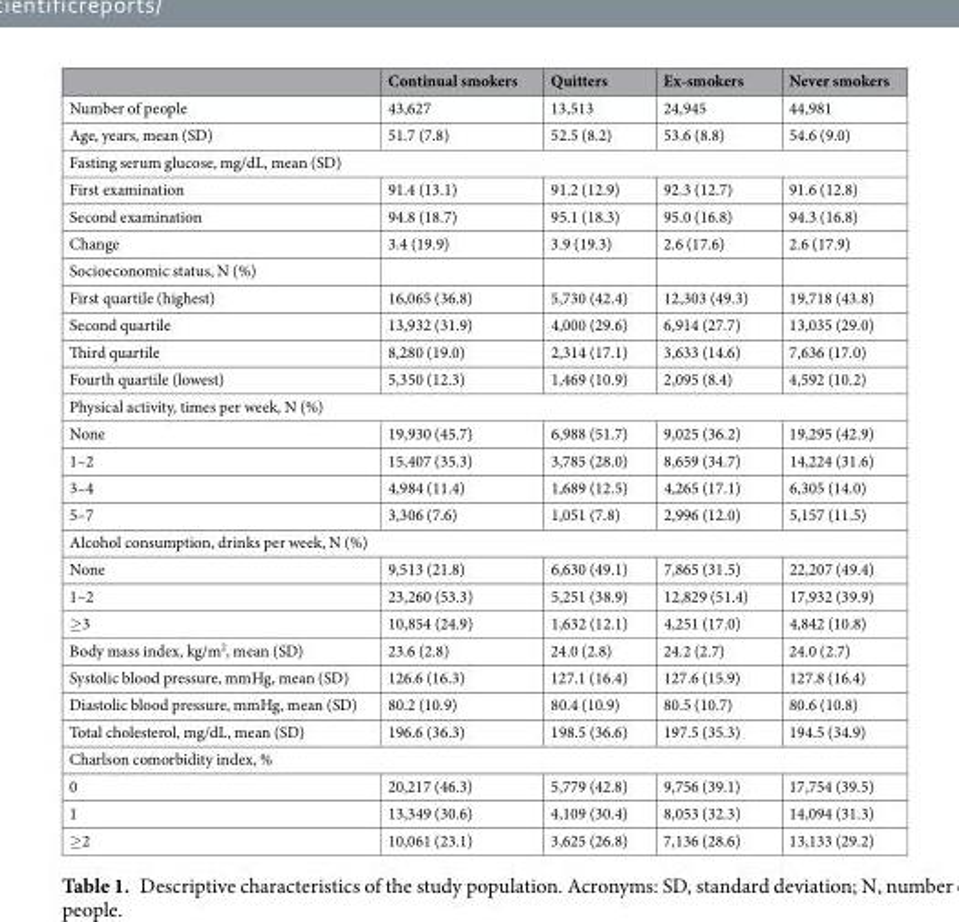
<table><thead><tr><td></td><td>Continual smokers</td><td>Quitters</td><td>Ex-smokers</td><td>Never smokers</td></tr></thead><tbody><tr><td>Number of people</td><td>43,627</td><td>13,513</td><td>24,945</td><td>44,981</td></tr><tr><td>Age, years, mean (SD)</td><td>51.7 (7.8)</td><td>52.5 (8.2)</td><td>53.6 (8.8)</td><td>54.6 (9.0)</td></tr><tr><td colspan="5">Fasting serum glucose, mg/dL, mean (SD)</td></tr><tr><td>First examination</td><td>91.4 (13.1)</td><td>91.2 (12.9)</td><td>92.3 (12.7)</td><td>91.6 (12.8)</td></tr><tr><td>Second examination</td><td>94.8 (18.7)</td><td>95.1 (18.3)</td><td>95.0 (16.8)</td><td>94.3 (16.8)</td></tr><tr><td>Change</td><td>3.4 (19.9)</td><td>3.9 (19.3)</td><td>2.6 (17.6)</td><td>2.6 (17.9)</td></tr><tr><td colspan="5">Socioeconomic status, N (%)</td></tr><tr><td>First quartile (highest)</td><td>16,065 (36.8)</td><td>5,730 (42.4)</td><td>12,303 (49.3)</td><td>19,718 (43.8)</td></tr><tr><td>Second quartile</td><td>13,932 (31.9)</td><td>4,000 (29.6)</td><td>6,914 (27.7)</td><td>13,035 (29.0)</td></tr><tr><td>Third quartile</td><td>8,280 (19.0)</td><td>2,314 (17.1)</td><td>3,633 (14.6)</td><td>7,636 (17.0)</td></tr><tr><td>Fourth quartile (lowest)</td><td>5,350 (12.3)</td><td>1,469 (10.9)</td><td>2,095 (8.4)</td><td>4,592 (10.2)</td></tr><tr><td colspan="5">Physical activity, times per week, N (%)</td></tr><tr><td>None</td><td>19,930 (45.7)</td><td>6,988 (51.7)</td><td>9,025 (36.2)</td><td>19,295 (42.9)</td></tr><tr><td>1–2</td><td>15,407 (35.3)</td><td>3,785 (28.0)</td><td>8,659 (34.7)</td><td>14,224 (31.6)</td></tr><tr><td>3–4</td><td>4,984 (11.4)</td><td>1,689 (12.5)</td><td>4,265 (17.1)</td><td>6,305 (14.0)</td></tr><tr><td>5–7</td><td>3,306 (7.6)</td><td>1,051 (7.8)</td><td>2,996 (12.0)</td><td>5,157 (11.5)</td></tr><tr><td colspan="5">Alcohol consumption, drinks per week, N (%)</td></tr><tr><td>None</td><td>9,513 (21.8)</td><td>6,630 (49.1)</td><td>7,865 (31.5)</td><td>22,207 (49.4)</td></tr><tr><td>1–2</td><td>23,260 (53.3)</td><td>5,251 (38.9)</td><td>12,829 (51.4)</td><td>17,932 (39.9)</td></tr><tr><td>≥3</td><td>10,854 (24.9)</td><td>1,632 (12.1)</td><td>4,251 (17.0)</td><td>4,842 (10.8)</td></tr><tr><td>Body mass index, kg/m<sup>2</sup>, mean (SD)</td><td>23.6 (2.8)</td><td>24.0 (2.8)</td><td>24.2 (2.7)</td><td>24.0 (2.7)</td></tr><tr><td>Systolic blood pressure, mmHg, mean (SD)</td><td>126.6 (16.3)</td><td>127.1 (16.4)</td><td>127.6 (15.9)</td><td>127.8 (16.4)</td></tr><tr><td>Diastolic blood pressure, mmHg, mean (SD)</td><td>80.2 (10.9)</td><td>80.4 (10.9)</td><td>80.5 (10.7)</td><td>80.6 (10.8)</td></tr><tr><td>Total cholesterol, mg/dL, mean (SD)</td><td>196.6 (36.3)</td><td>198.5 (36.6)</td><td>197.5 (35.3)</td><td>194.5 (34.9)</td></tr><tr><td colspan="5">Charlson comorbidity index, %</td></tr><tr><td>0</td><td>20,217 (46.3)</td><td>5,779 (42.8)</td><td>9,756 (39.1)</td><td>17,754 (39.5)</td></tr><tr><td>1</td><td>13,349 (30.6)</td><td>4,109 (30.4)</td><td>8,053 (32.3)</td><td>14,094 (31.3)</td></tr><tr><td>≥2</td><td>10,061 (23.1)</td><td>3,625 (26.8)</td><td>7,136 (28.6)</td><td>13,133 (29.2)</td></tr></tbody></table>